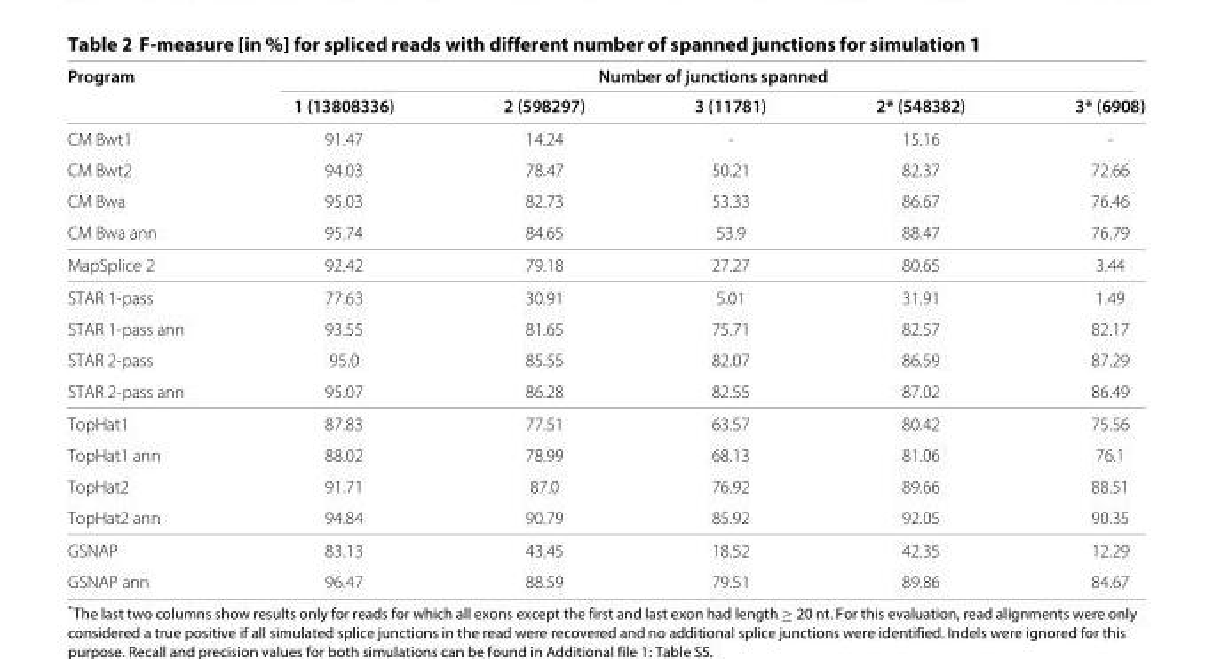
<table><thead><tr><td rowspan="2">Program</td><td colspan="5">Number of junctions spanned</td></tr><tr><td>1 (13808336)</td><td>2 (598297)</td><td>3 (11781)</td><td>2* (548382)</td><td>3* (6908)</td></tr></thead><tbody><tr><td>CM Bwt1</td><td>91.47</td><td>14.24</td><td>-</td><td>15.16</td><td>-</td></tr><tr><td>CM Bwt2</td><td>94.03</td><td>78.47</td><td>50.21</td><td>82.37</td><td>72.66</td></tr><tr><td>CM Bwa</td><td>95.03</td><td>82.73</td><td>53.33</td><td>86.67</td><td>76.46</td></tr><tr><td>CM Bwa ann</td><td>95.74</td><td>84.65</td><td>53.9</td><td>88.47</td><td>76.79</td></tr><tr><td>MapSplice 2</td><td>92.42</td><td>79.18</td><td>27.27</td><td>80.65</td><td>3.44</td></tr><tr><td>STAR 1-pass</td><td>77.63</td><td>30.91</td><td>5.01</td><td>31.91</td><td>1.49</td></tr><tr><td>STAR 1-pass ann</td><td>93.55</td><td>81.65</td><td>75.71</td><td>82.57</td><td>82.17</td></tr><tr><td>STAR 2-pass</td><td>95.0</td><td>85.55</td><td>82.07</td><td>86.59</td><td>87.29</td></tr><tr><td>STAR 2-pass ann</td><td>95.07</td><td>86.28</td><td>82.55</td><td>87.02</td><td>86.49</td></tr><tr><td>TopHat1</td><td>87.83</td><td>77.51</td><td>63.57</td><td>80.42</td><td>75.56</td></tr><tr><td>TopHat1 ann</td><td>88.02</td><td>78.99</td><td>68.13</td><td>81.06</td><td>76.1</td></tr><tr><td>TopHat2</td><td>91.71</td><td>87.0</td><td>76.92</td><td>89.66</td><td>88.51</td></tr><tr><td>TopHat2 ann</td><td>94.84</td><td>90.79</td><td>85.92</td><td>92.05</td><td>90.35</td></tr><tr><td>GSNAP</td><td>83.13</td><td>43.45</td><td>18.52</td><td>42.35</td><td>12.29</td></tr><tr><td>GSNAP ann</td><td>96.47</td><td>88.59</td><td>79.51</td><td>89.86</td><td>84.67</td></tr></tbody></table>